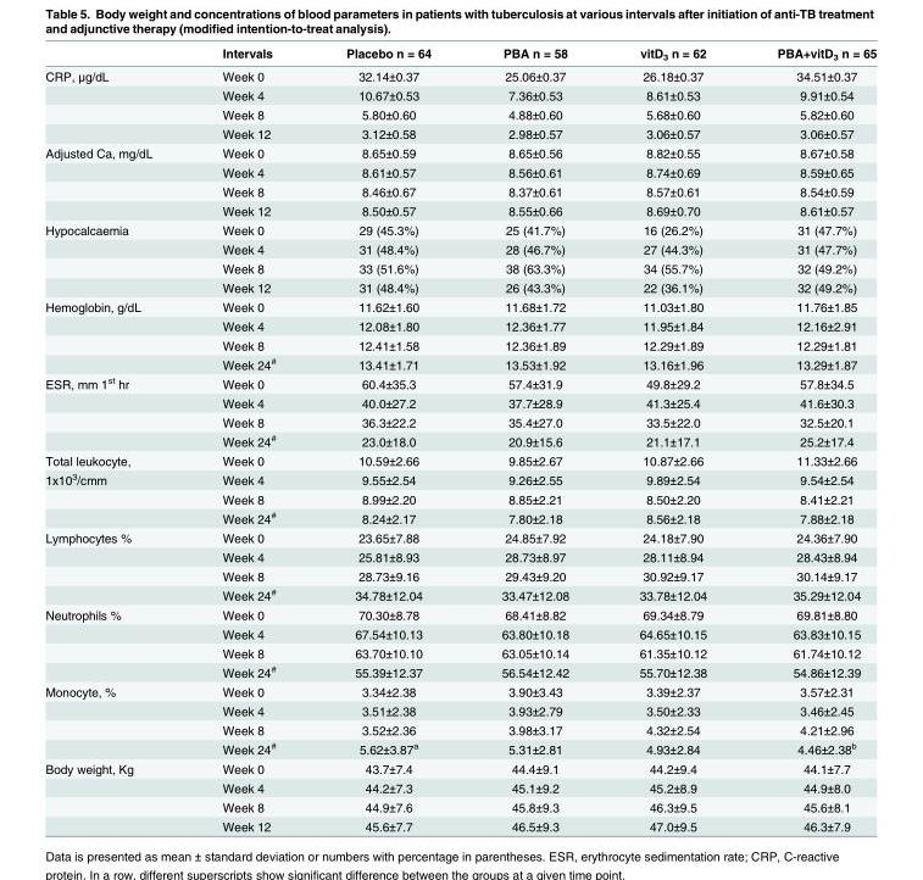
<table><thead><tr><td></td><td>Intervals</td><td>Placebo n = 64</td><td>PBA n = 58</td><td>vitD<sub>3</sub> n = 62</td><td>PBA+vitD<sub>3</sub> n = 65</td></tr></thead><tbody><tr><td rowspan="4">CRP, μg/dL</td><td>Week 0</td><td>32.14±0.37</td><td>25.06±0.37</td><td>26.18±0.37</td><td>34.51±0.37</td></tr><tr><td>Week 4</td><td>10.67±0.53</td><td>7.36±0.53</td><td>8.61±0.53</td><td>9.91±0.54</td></tr><tr><td>Week 8</td><td>5.80±0.60</td><td>4.88±0.60</td><td>5.68±0.60</td><td>5.82±0.60</td></tr><tr><td>Week 12</td><td>3.12±0.58</td><td>2.98±0.57</td><td>3.06±0.57</td><td>3.06±0.57</td></tr><tr><td rowspan="4">Adjusted Ca, mg/dL</td><td>Week 0</td><td>8.65±0.59</td><td>8.65±0.56</td><td>8.82±0.55</td><td>8.67±0.58</td></tr><tr><td>Week 4</td><td>8.61±0.57</td><td>8.56±0.61</td><td>8.74±0.69</td><td>8.59±0.65</td></tr><tr><td>Week 8</td><td>8.46±0.67</td><td>8.37±0.61</td><td>8.57±0.61</td><td>8.54±0.59</td></tr><tr><td>Week 12</td><td>8.50±0.57</td><td>8.55±0.66</td><td>8.69±0.70</td><td>8.61±0.57</td></tr><tr><td rowspan="4">Hypocalcaemia</td><td>Week 0</td><td>29 (45.3%)</td><td>25 (41.7%)</td><td>16 (26.2%)</td><td>31 (47.7%)</td></tr><tr><td>Week 4</td><td>31 (48.4%)</td><td>28 (46.7%)</td><td>27 (44.3%)</td><td>31 (47.7%)</td></tr><tr><td>Week 8</td><td>33 (51.6%)</td><td>38 (63.3%)</td><td>34 (55.7%)</td><td>32 (49.2%)</td></tr><tr><td>Week 12</td><td>31 (48.4%)</td><td>26 (43.3%)</td><td>22 (36.1%)</td><td>32 (49.2%)</td></tr><tr><td rowspan="4">Hemoglobin, g/dL</td><td>Week 0</td><td>11.62±1.60</td><td>11.68±1.72</td><td>11.03±1.80</td><td>11.76±1.85</td></tr><tr><td>Week 4</td><td>12.08±1.80</td><td>12.36±1.77</td><td>11.95±1.84</td><td>12.16±2.91</td></tr><tr><td>Week 8</td><td>12.41±1.58</td><td>12.36±1.89</td><td>12.29±1.89</td><td>12.29±1.81</td></tr><tr><td>Week 24<sup>#</sup></td><td>13.41±1.71</td><td>13.53±1.92</td><td>13.16±1.96</td><td>13.29±1.87</td></tr><tr><td rowspan="4">ESR, mm 1<sup>st</sup> hr</td><td>Week 0</td><td>60.4±35.3</td><td>57.4±31.9</td><td>49.8±29.2</td><td>57.8±34.5</td></tr><tr><td>Week 4</td><td>40.0±27.2</td><td>37.7±28.9</td><td>41.3±25.4</td><td>41.6±30.3</td></tr><tr><td>Week 8</td><td>36.3±22.2</td><td>35.4±27.0</td><td>33.5±22.0</td><td>32.5±20.1</td></tr><tr><td>Week 24<sup>#</sup></td><td>23.0±18.0</td><td>20.9±15.6</td><td>21.1±17.1</td><td>25.2±17.4</td></tr><tr><td>Total leukocyte,</td><td>Week 0</td><td>10.59±2.66</td><td>9.85±2.67</td><td>10.87±2.66</td><td>11.33±2.66</td></tr><tr><td rowspan="3">1x10<sup>3</sup>/cmm</td><td>Week 4</td><td>9.55±2.54</td><td>9.26±2.55</td><td>9.89±2.54</td><td>9.54±2.54</td></tr><tr><td>Week 8</td><td>8.99±2.20</td><td>8.85±2.21</td><td>8.50±2.20</td><td>8.41±2.21</td></tr><tr><td>Week 24<sup>#</sup></td><td>8.24±2.17</td><td>7.80±2.18</td><td>8.56±2.18</td><td>7.88±2.18</td></tr><tr><td rowspan="4">Lymphocytes %</td><td>Week 0</td><td>23.65±7.88</td><td>24.85±7.92</td><td>24.18±7.90</td><td>24.36±7.90</td></tr><tr><td>Week 4</td><td>25.81±8.93</td><td>28.73±8.97</td><td>28.11±8.94</td><td>28.43±8.94</td></tr><tr><td>Week 8</td><td>28.73±9.16</td><td>29.43±9.20</td><td>30.92±9.17</td><td>30.14±9.17</td></tr><tr><td>Week 24<sup>#</sup></td><td>34.78±12.04</td><td>33.47±12.08</td><td>33.78±12.04</td><td>35.29±12.04</td></tr><tr><td rowspan="4">Neutrophils %</td><td>Week 0</td><td>70.30±8.78</td><td>68.41±8.82</td><td>69.34±8.79</td><td>69.81±8.80</td></tr><tr><td>Week 4</td><td>67.54±10.13</td><td>63.80±10.18</td><td>64.65±10.15</td><td>63.83±10.15</td></tr><tr><td>Week 8</td><td>63.70±10.10</td><td>63.05±10.14</td><td>61.35±10.12</td><td>61.74±10.12</td></tr><tr><td>Week 24<sup>#</sup></td><td>55.39±12.37</td><td>56.54±12.42</td><td>55.70±12.38</td><td>54.86±12.39</td></tr><tr><td rowspan="4">Monocyte, %</td><td>Week 0</td><td>3.34±2.38</td><td>3.90±3.43</td><td>3.39±2.37</td><td>3.57±2.31</td></tr><tr><td>Week 4</td><td>3.51±2.38</td><td>3.93±2.79</td><td>3.50±2.33</td><td>3.46±2.45</td></tr><tr><td>Week 8</td><td>3.52±2.36</td><td>3.98±3.17</td><td>4.32±2.54</td><td>4.21±2.96</td></tr><tr><td>Week 24<sup>#</sup></td><td>5.62±3.87<sup>a</sup></td><td>5.31±2.81</td><td>4.93±2.84</td><td>4.46±2.38<sup>b</sup></td></tr><tr><td rowspan="4">Body weight, Kg</td><td>Week 0</td><td>43.7±7.4</td><td>44.4±9.1</td><td>44.2±9.4</td><td>44.1±7.7</td></tr><tr><td>Week 4</td><td>44.2±7.3</td><td>45.1±9.2</td><td>45.2±8.9</td><td>44.9±8.0</td></tr><tr><td>Week 8</td><td>44.9±7.6</td><td>45.8±9.3</td><td>46.3±9.5</td><td>45.6±8.1</td></tr><tr><td>Week 12</td><td>45.6±7.7</td><td>46.5±9.3</td><td>47.0±9.5</td><td>46.3±7.9</td></tr></tbody></table>